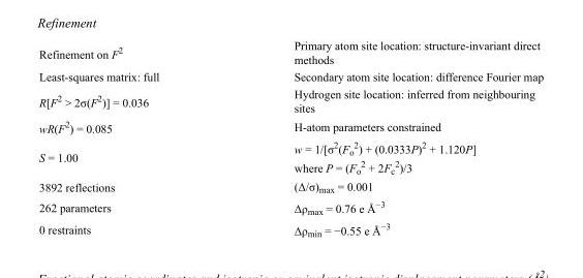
<table><tbody><tr><td>Refinement on F<sup>2</sup></td><td>Primary atom site location: structure-invariant direct methods</td></tr><tr><td>Least-squares matrix: full</td><td>Secondary atom site location: difference Fourier map</td></tr><tr><td>R[F<sup>2</sup> &gt; 2σ(F<sup>2</sup>)] = 0.036</td><td>Hydrogen site location: inferred from neighbouring sites</td></tr><tr><td>wR(F<sup>2</sup>) = 0.085</td><td>H-atom parameters constrained</td></tr><tr><td>S = 1.00</td><td>w = 1/[σ<sup>2</sup>(F<sub>o</sub> <sup>2</sup>) + (0.0333P)<sup>2</sup> + 1.120P] where P = (F<sub>o</sub> <sup>2</sup> + 2F<sub>c</sub> <sup>2</sup>)/3</td></tr><tr><td>3892 reflections</td><td>(Δ/σ)<sub>max</sub> = 0.001</td></tr><tr><td>262 parameters</td><td>Δρ<sub>max</sub> = 0.76 e Å<sup>−3</sup></td></tr><tr><td>0 restraints</td><td>Δρ<sub>min</sub> = −0.55 e Å<sup>−3</sup></td></tr></tbody></table>